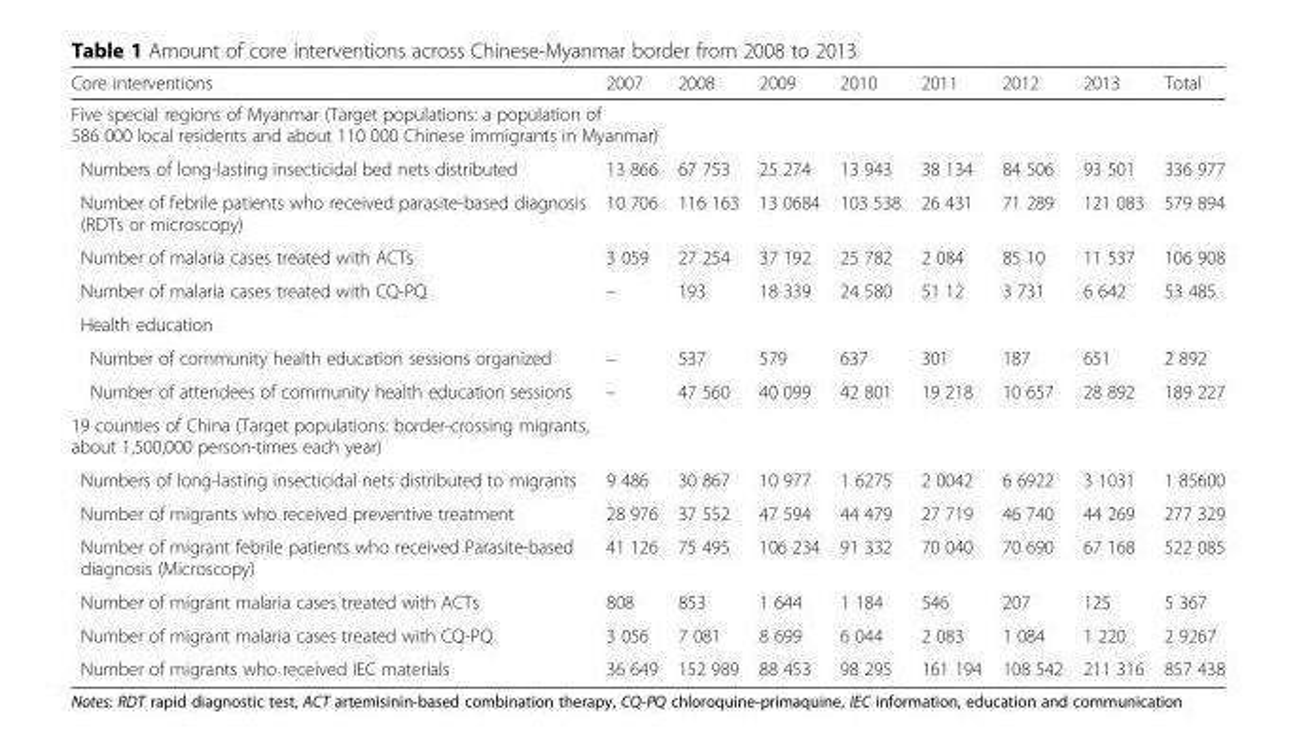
<table><thead><tr><td>Core interventions</td><td>2007</td><td>2008</td><td>2009</td><td>2010</td><td>2011</td><td>2012</td><td>2013</td><td>Total</td></tr></thead><tbody><tr><td colspan="9">Five special regions of Myanmar (Target populations: a population of 586 000 local residents and about 110 000 Chinese immigrants in Myanmar)</td></tr><tr><td>Numbers of long-lasting insecticidal bed nets distributed</td><td>13 866</td><td>67 753</td><td>25 274</td><td>13 943</td><td>38 134</td><td>84 506</td><td>93 501</td><td>336 977</td></tr><tr><td>Number of febrile patients who received parasite-based diagnosis (RDTs or microscopy)</td><td>10 706</td><td>116 163</td><td>13 0684</td><td>103 538</td><td>26 431</td><td>71 289</td><td>121 083</td><td>579 894</td></tr><tr><td>Number of malaria cases treated with ACTs</td><td>3 059</td><td>27 254</td><td>37 192</td><td>25 782</td><td>2 084</td><td>85 10</td><td>11 537</td><td>106 908</td></tr><tr><td>Number of malaria cases treated with CQ-PQ</td><td>–</td><td>193</td><td>18 339</td><td>24 580</td><td>51 12</td><td>3 731</td><td>6 642</td><td>53 485</td></tr><tr><td colspan="9">Health education</td></tr><tr><td>Number of community health education sessions organized</td><td>–</td><td>537</td><td>579</td><td>637</td><td>301</td><td>187</td><td>651</td><td>2 892</td></tr><tr><td>Number of attendees of community health education sessions</td><td>–</td><td>47 560</td><td>40 099</td><td>42 801</td><td>19 218</td><td>10 657</td><td>28 892</td><td>189 227</td></tr><tr><td colspan="9">19 counties of China (Target populations: border-crossing migrants, about 1,500,000 person-times each year)</td></tr><tr><td>Numbers of long-lasting insecticidal nets distributed to migrants</td><td>9 486</td><td>30 867</td><td>10 977</td><td>1 6275</td><td>2 0042</td><td>6 6922</td><td>3 1031</td><td>1 85600</td></tr><tr><td>Number of migrants who received preventive treatment</td><td>28 976</td><td>37 552</td><td>47 594</td><td>44 479</td><td>27 719</td><td>46 740</td><td>44 269</td><td>277 329</td></tr><tr><td>Number of migrant febrile patients who received Parasite-based diagnosis (Microscopy)</td><td>41 126</td><td>75 495</td><td>106 234</td><td>91 332</td><td>70 040</td><td>70 690</td><td>67 168</td><td>522 085</td></tr><tr><td>Number of migrant malaria cases treated with ACTs</td><td>808</td><td>853</td><td>1 644</td><td>1 184</td><td>546</td><td>207</td><td>125</td><td>5 367</td></tr><tr><td>Number of migrant malaria cases treated with CQ-PQ</td><td>3 056</td><td>7 081</td><td>8 699</td><td>6 044</td><td>2 083</td><td>1 084</td><td>1 220</td><td>2 9267</td></tr><tr><td>Number of migrants who received IEC materials</td><td>36 649</td><td>152 989</td><td>88 453</td><td>98 295</td><td>161 194</td><td>108 542</td><td>211 316</td><td>857 438</td></tr></tbody></table>